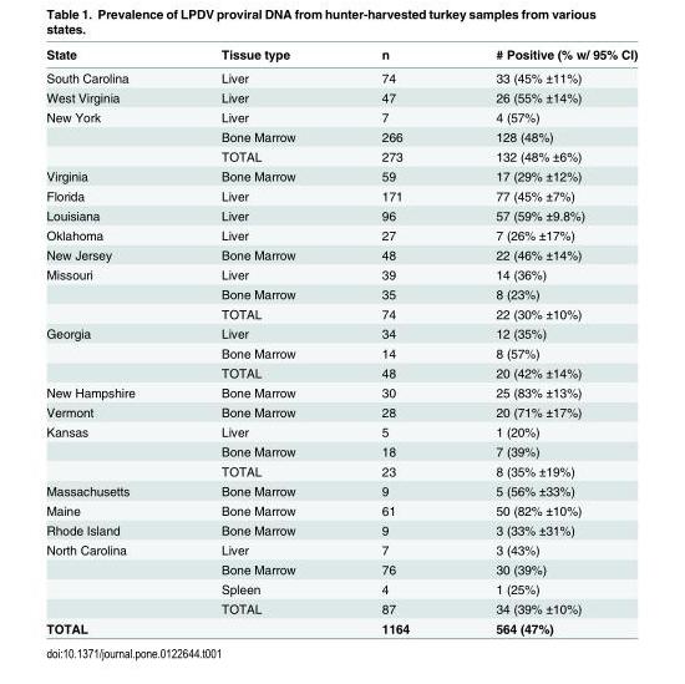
<table><thead><tr><td>State</td><td>Tissue type</td><td>n</td><td># Positive (% w/ 95% CI)</td></tr></thead><tbody><tr><td>South Carolina</td><td>Liver</td><td>74</td><td>33 (45% ±11%)</td></tr><tr><td>West Virginia</td><td>Liver</td><td>47</td><td>26 (55% ±14%)</td></tr><tr><td rowspan="3">New York</td><td>Liver</td><td>7</td><td>4 (57%)</td></tr><tr><td>Bone Marrow</td><td>266</td><td>128 (48%)</td></tr><tr><td>TOTAL</td><td>273</td><td>132 (48% ±6%)</td></tr><tr><td>Virginia</td><td>Bone Marrow</td><td>59</td><td>17 (29% ±12%)</td></tr><tr><td>Florida</td><td>Liver</td><td>171</td><td>77 (45% ±7%)</td></tr><tr><td>Louisiana</td><td>Liver</td><td>96</td><td>57 (59% ±9.8%)</td></tr><tr><td>Oklahoma</td><td>Liver</td><td>27</td><td>7 (26% ±17%)</td></tr><tr><td>New Jersey</td><td>Bone Marrow</td><td>48</td><td>22 (46% ±14%)</td></tr><tr><td rowspan="3">Missouri</td><td>Liver</td><td>39</td><td>14 (36%)</td></tr><tr><td>Bone Marrow</td><td>35</td><td>8 (23%)</td></tr><tr><td>TOTAL</td><td>74</td><td>22 (30% ±10%)</td></tr><tr><td rowspan="3">Georgia</td><td>Liver</td><td>34</td><td>12 (35%)</td></tr><tr><td>Bone Marrow</td><td>14</td><td>8 (57%)</td></tr><tr><td>TOTAL</td><td>48</td><td>20 (42% ±14%)</td></tr><tr><td>New Hampshire</td><td>Bone Marrow</td><td>30</td><td>25 (83% ±13%)</td></tr><tr><td>Vermont</td><td>Bone Marrow</td><td>28</td><td>20 (71% ±17%)</td></tr><tr><td rowspan="3">Kansas</td><td>Liver</td><td>5</td><td>1 (20%)</td></tr><tr><td>Bone Marrow</td><td>18</td><td>7 (39%)</td></tr><tr><td>TOTAL</td><td>23</td><td>8 (35% ±19%)</td></tr><tr><td>Massachusetts</td><td>Bone Marrow</td><td>9</td><td>5 (56% ±33%)</td></tr><tr><td>Maine</td><td>Bone Marrow</td><td>61</td><td>50 (82% ±10%)</td></tr><tr><td>Rhode Island</td><td>Bone Marrow</td><td>9</td><td>3 (33% ±31%)</td></tr><tr><td rowspan="4">North Carolina</td><td>Liver</td><td>7</td><td>3 (43%)</td></tr><tr><td>Bone Marrow</td><td>76</td><td>30 (39%)</td></tr><tr><td>Spleen</td><td>4</td><td>1 (25%)</td></tr><tr><td>TOTAL</td><td>87</td><td>34 (39% ±10%)</td></tr><tr><td>TOTAL</td><td></td><td>1164</td><td>564 (47%)</td></tr></tbody></table>